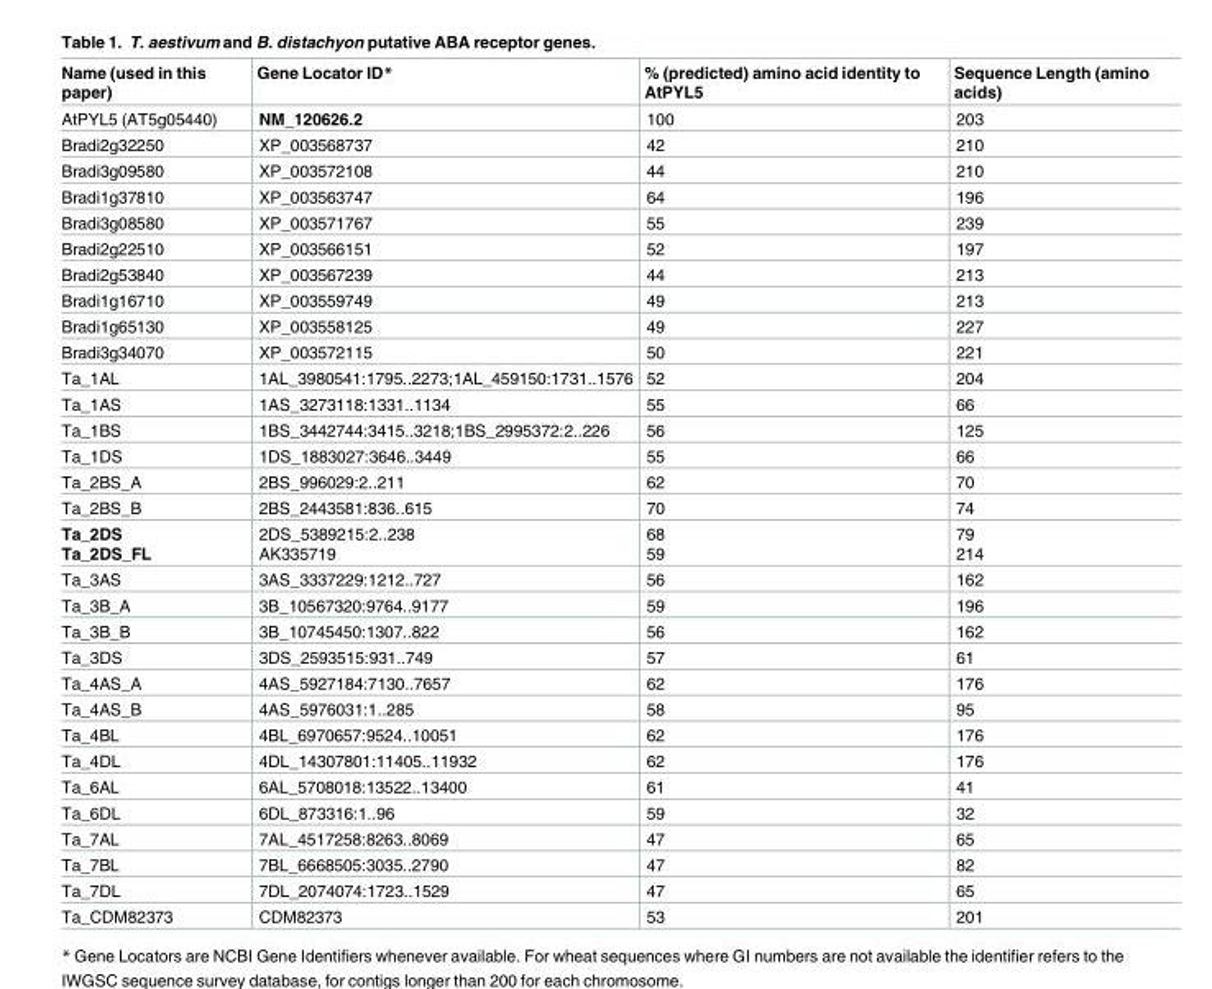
<table><thead><tr><td>Name (used in this paper)</td><td>Gene Locator ID*</td><td>% (predicted) amino acid identity to AtPYL5</td><td>Sequence Length (amino acids)</td></tr></thead><tbody><tr><td>AtPYL5 (AT5g05440)</td><td>NM_120626.2</td><td>100</td><td>203</td></tr><tr><td>Bradi2g32250</td><td>XP_003568737</td><td>42</td><td>210</td></tr><tr><td>Bradi3g09580</td><td>XP_003572108</td><td>44</td><td>210</td></tr><tr><td>Bradi1g37810</td><td>XP_003563747</td><td>64</td><td>196</td></tr><tr><td>Bradi3g08580</td><td>XP_003571767</td><td>55</td><td>239</td></tr><tr><td>Bradi2g22510</td><td>XP_003566151</td><td>52</td><td>197</td></tr><tr><td>Bradi2g53840</td><td>XP_003567239</td><td>44</td><td>213</td></tr><tr><td>Bradi1g16710</td><td>XP_003559749</td><td>49</td><td>213</td></tr><tr><td>Bradi1g65130</td><td>XP_003558125</td><td>49</td><td>227</td></tr><tr><td>Bradi3g34070</td><td>XP_003572115</td><td>50</td><td>221</td></tr><tr><td>Ta_1AL</td><td>1AL_3980541:1795..2273;1AL_459150:1731..1576</td><td>52</td><td>204</td></tr><tr><td>Ta_1AS</td><td>1AS_3273118:1331..1134</td><td>55</td><td>66</td></tr><tr><td>Ta_1BS</td><td>1BS_3442744:3415..3218;1BS_2995372:2..226</td><td>56</td><td>125</td></tr><tr><td>Ta_1DS</td><td>1DS_1883027:3646..3449</td><td>55</td><td>66</td></tr><tr><td>Ta_2BS_A</td><td>2BS_996029:2..211</td><td>62</td><td>70</td></tr><tr><td>Ta_2BS_B</td><td>2BS_2443581:836..615</td><td>70</td><td>74</td></tr><tr><td>Ta_2DS Ta_2DS_FL</td><td>2DS_5389215:2..238 AK335719</td><td>68 59</td><td>79 214</td></tr><tr><td>Ta_3AS</td><td>3AS_3337229:1212..727</td><td>56</td><td>162</td></tr><tr><td>Ta_3B_A</td><td>3B_10567320:9764..9177</td><td>59</td><td>196</td></tr><tr><td>Ta_3B_B</td><td>3B_10745450:1307..822</td><td>56</td><td>162</td></tr><tr><td>Ta_3DS</td><td>3DS_2593515:931..749</td><td>57</td><td>61</td></tr><tr><td>Ta_4AS_A</td><td>4AS_5927184:7130..7657</td><td>62</td><td>176</td></tr><tr><td>Ta_4AS_B</td><td>4AS_5976031:1..285</td><td>58</td><td>95</td></tr><tr><td>Ta_4BL</td><td>4BL_6970657:9524..10051</td><td>62</td><td>176</td></tr><tr><td>Ta_4DL</td><td>4DL_14307801:11405..11932</td><td>62</td><td>176</td></tr><tr><td>Ta_6AL</td><td>6AL_5708018:13522..13400</td><td>61</td><td>41</td></tr><tr><td>Ta_6DL</td><td>6DL_873316:1..96</td><td>59</td><td>32</td></tr><tr><td>Ta_7AL</td><td>7AL_4517258:8263..8069</td><td>47</td><td>65</td></tr><tr><td>Ta_7BL</td><td>7BL_6668505:3035..2790</td><td>47</td><td>82</td></tr><tr><td>Ta_7DL</td><td>7DL_2074074:1723..1529</td><td>47</td><td>65</td></tr><tr><td>Ta_CDM82373</td><td>CDM82373</td><td>53</td><td>201</td></tr></tbody></table>